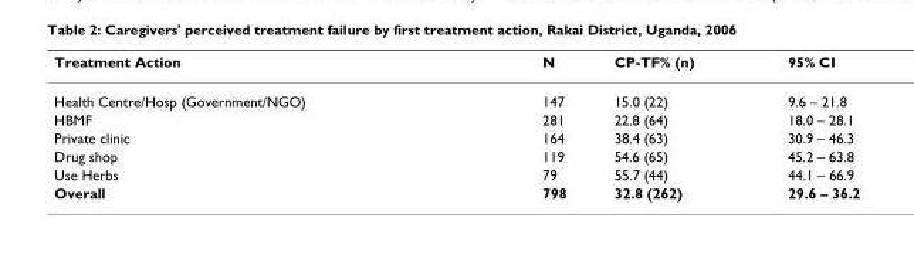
<table><thead><tr><td>Treatment Action</td><td>N</td><td>CP-TF% (n)</td><td>95% CI</td></tr></thead><tbody><tr><td>Health Centre/Hosp (Government/NGO)</td><td>147</td><td>15.0 (22)</td><td>9.6 – 21.8</td></tr><tr><td>HBMF</td><td>281</td><td>22.8 (64)</td><td>18.0 – 28.1</td></tr><tr><td>Private clinic</td><td>164</td><td>38.4 (63)</td><td>30.9 – 46.3</td></tr><tr><td>Drug shop</td><td>119</td><td>54.6 (65)</td><td>45.2 – 63.8</td></tr><tr><td>Use Herbs</td><td>79</td><td>55.7 (44)</td><td>44.1 – 66.9</td></tr><tr><td>Overall</td><td>798</td><td>32.8 (262)</td><td>29.6 – 36.2</td></tr></tbody></table>